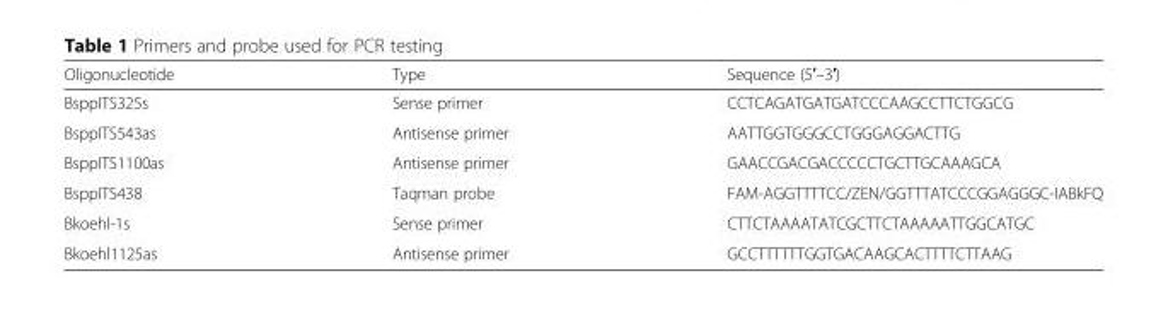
<table><thead><tr><td>Oligonucleotide</td><td>Type</td><td>Sequence (5′–3′)</td></tr></thead><tbody><tr><td>BsppITS325s</td><td>Sense primer</td><td>CCTCAGATGATGATCCCAAGCCTTCTGGCG</td></tr><tr><td>BsppITS543as</td><td>Antisense primer</td><td>AATTGGTGGGCCTGGGAGGACTTG</td></tr><tr><td>BsppITS1100as</td><td>Antisense primer</td><td>GAACCGACGACCCCCTGCTTGCAAAGCA</td></tr><tr><td>BsppITS438</td><td>Taqman probe</td><td>FAM-AGGTTTTCC/ZEN/GGTTTATCCCGGAGGGC-IABkFQ</td></tr><tr><td>Bkoehl-1s</td><td>Sense primer</td><td>CTTCTAAAATATCGCTTCTAAAAATTGGCATGC</td></tr><tr><td>Bkoehl1125as</td><td>Antisense primer</td><td>GCCTTTTTTGGTGACAAGCACTTTTCTTAAG</td></tr></tbody></table>